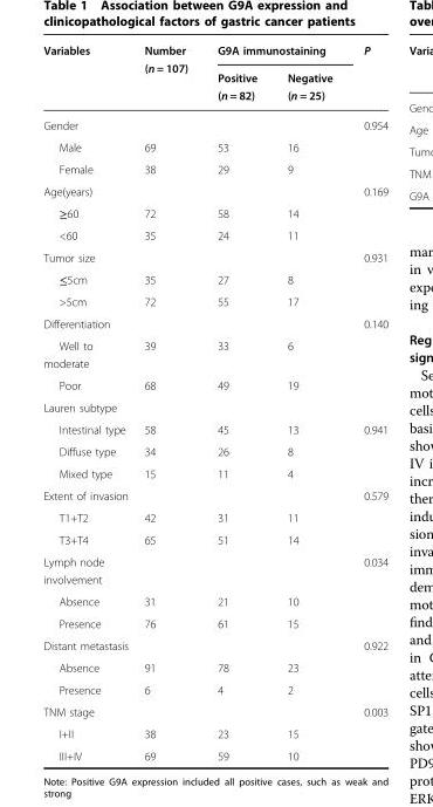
<table><thead><tr><td rowspan="2">Variables</td><td rowspan="2">Number (n = 107)</td><td colspan="2">G9A immunostaining</td><td rowspan="2">P</td></tr><tr><td>Positive (n = 82)</td><td>Negative (n = 25)</td></tr></thead><tbody><tr><td>Gender</td><td></td><td></td><td></td><td>0.954</td></tr><tr><td>Male</td><td>69</td><td>53</td><td>16</td><td></td></tr><tr><td>Female</td><td>38</td><td>29</td><td>9</td><td></td></tr><tr><td>Age(years)</td><td></td><td></td><td></td><td>0.169</td></tr><tr><td>≥60</td><td>72</td><td>58</td><td>14</td><td></td></tr><tr><td>&lt;60</td><td>35</td><td>24</td><td>11</td><td></td></tr><tr><td>Tumor size</td><td></td><td></td><td></td><td>0.931</td></tr><tr><td>≤5cm</td><td>35</td><td>27</td><td>8</td><td></td></tr><tr><td>&gt;5cm</td><td>72</td><td>55</td><td>17</td><td></td></tr><tr><td>Differentiation</td><td></td><td></td><td></td><td>0.140</td></tr><tr><td>Well to moderate</td><td>39</td><td>33</td><td>6</td><td></td></tr><tr><td>Poor</td><td>68</td><td>49</td><td>19</td><td></td></tr><tr><td colspan="5">Lauren subtype</td></tr><tr><td>Intestinal type</td><td>58</td><td>45</td><td>13</td><td>0.941</td></tr><tr><td>Diffuse type</td><td>34</td><td>26</td><td>8</td><td></td></tr><tr><td>Mixed type</td><td>15</td><td>11</td><td>4</td><td></td></tr><tr><td>Extent of invasion</td><td></td><td></td><td></td><td>0.579</td></tr><tr><td>T1+T2</td><td>42</td><td>31</td><td>11</td><td></td></tr><tr><td>T3+T4</td><td>65</td><td>51</td><td>14</td><td></td></tr><tr><td>Lymph node involvement</td><td></td><td></td><td></td><td>0.034</td></tr><tr><td>Absence</td><td>31</td><td>21</td><td>10</td><td></td></tr><tr><td>Presence</td><td>76</td><td>61</td><td>15</td><td></td></tr><tr><td>Distant metastasis</td><td></td><td></td><td></td><td>0.922</td></tr><tr><td>Absence</td><td>91</td><td>78</td><td>23</td><td></td></tr><tr><td>Presence</td><td>6</td><td>4</td><td>2</td><td></td></tr><tr><td>TNM stage</td><td></td><td></td><td></td><td>0.003</td></tr><tr><td>I+II</td><td>38</td><td>23</td><td>15</td><td></td></tr><tr><td>III+IV</td><td>69</td><td>59</td><td>10</td><td></td></tr></tbody></table>